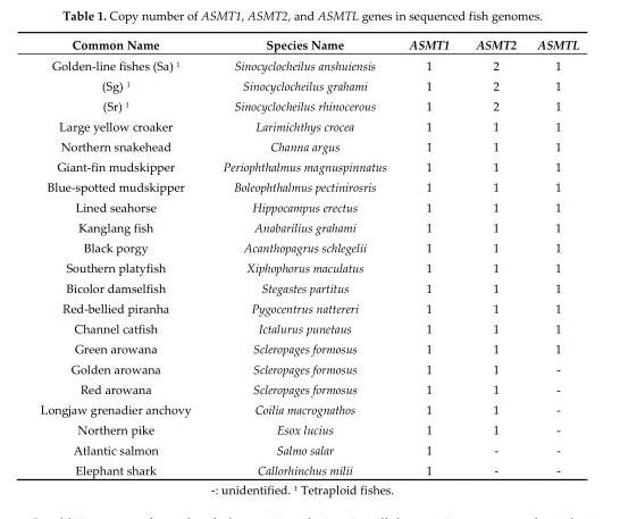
<table><thead><tr><td>Common Name</td><td>Species Name</td><td>ASMT1</td><td>ASMT2</td><td>ASMTL</td></tr></thead><tbody><tr><td>Golden-line fishes (Sa) <sup>1</sup></td><td>Sinocyclocheilus anshuiensis</td><td>1</td><td>2</td><td>1</td></tr><tr><td>(Sg) <sup>1</sup></td><td>Sinocyclocheilus grahami</td><td>1</td><td>2</td><td>1</td></tr><tr><td>(Sr) <sup>1</sup></td><td>Sinocyclocheilus rhinocerous</td><td>1</td><td>2</td><td>1</td></tr><tr><td>Large yellow croaker</td><td>Larimichthys crocea</td><td>1</td><td>1</td><td>1</td></tr><tr><td>Northern snakehead</td><td>Channa argus</td><td>1</td><td>1</td><td>1</td></tr><tr><td>Giant-fin mudskipper</td><td>Periophthalmus magnuspinnatus</td><td>1</td><td>1</td><td>1</td></tr><tr><td>Blue-spotted mudskipper</td><td>Boleophthalmus pectinirosris</td><td>1</td><td>1</td><td>1</td></tr><tr><td>Lined seahorse</td><td>Hippocampus erectus</td><td>1</td><td>1</td><td>1</td></tr><tr><td>Kanglang fish</td><td>Anabarilius grahami</td><td>1</td><td>1</td><td>1</td></tr><tr><td>Black porgy</td><td>Acanthopagrus schlegelii</td><td>1</td><td>1</td><td>1</td></tr><tr><td>Southern platyfish</td><td>Xiphophorus maculatus</td><td>1</td><td>1</td><td>1</td></tr><tr><td>Bicolor damselfish</td><td>Stegastes partitus</td><td>1</td><td>1</td><td>1</td></tr><tr><td>Red-bellied piranha</td><td>Pygocentrus nattereri</td><td>1</td><td>1</td><td>1</td></tr><tr><td>Channel catfish</td><td>Ictalurus punetaus</td><td>1</td><td>1</td><td>1</td></tr><tr><td>Green arowana</td><td>Scleropages formosus</td><td>1</td><td>1</td><td>1</td></tr><tr><td>Golden arowana</td><td>Scleropages formosus</td><td>1</td><td>1</td><td>-</td></tr><tr><td>Red arowana</td><td>Scleropages formosus</td><td>1</td><td>1</td><td>-</td></tr><tr><td>Longjaw grenadier anchovy</td><td>Coilia macrognathos</td><td>1</td><td>1</td><td>-</td></tr><tr><td>Northern pike</td><td>Esox lucius</td><td>1</td><td>1</td><td>-</td></tr><tr><td>Atlantic salmon</td><td>Salmo salar</td><td>1</td><td>-</td><td>-</td></tr><tr><td>Elephant shark</td><td>Callorhinchus milii</td><td>1</td><td>-</td><td>-</td></tr></tbody></table>